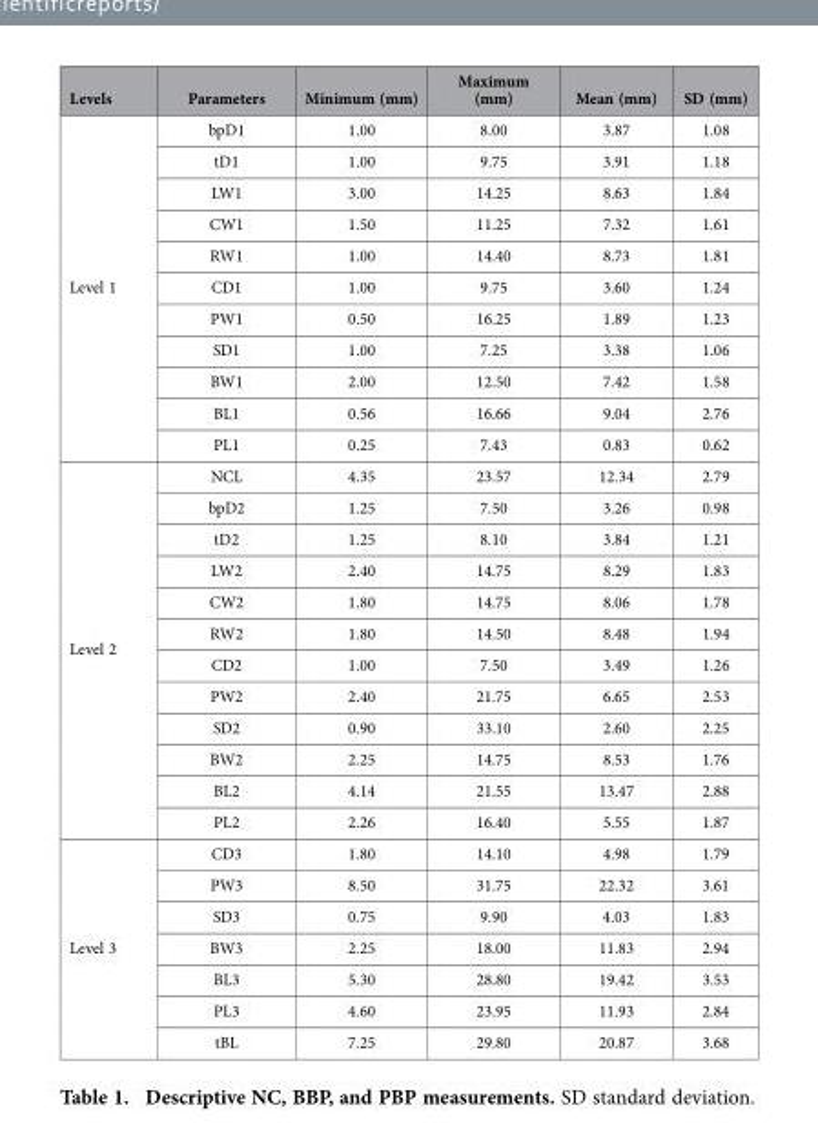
<table><thead><tr><td>Levels</td><td>Parameters</td><td>Minimum (mm)</td><td>Maximum (mm)</td><td>Mean (mm)</td><td>SD (mm)</td></tr></thead><tbody><tr><td rowspan="11">Level 1</td><td>bpD1</td><td>1.00</td><td>8.00</td><td>3.87</td><td>1.08</td></tr><tr><td>tD1</td><td>1.00</td><td>9.75</td><td>3.91</td><td>1.18</td></tr><tr><td>LW1</td><td>3.00</td><td>14.25</td><td>8.63</td><td>1.84</td></tr><tr><td>CW1</td><td>1.50</td><td>11.25</td><td>7.32</td><td>1.61</td></tr><tr><td>RW1</td><td>1.00</td><td>14.40</td><td>8.73</td><td>1.81</td></tr><tr><td>CD1</td><td>1.00</td><td>9.75</td><td>3.60</td><td>1.24</td></tr><tr><td>PW1</td><td>0.50</td><td>16.25</td><td>1.89</td><td>1.23</td></tr><tr><td>SD1</td><td>1.00</td><td>7.25</td><td>3.38</td><td>1.06</td></tr><tr><td>BW1</td><td>2.00</td><td>12.50</td><td>7.42</td><td>1.58</td></tr><tr><td>BL1</td><td>0.56</td><td>16.66</td><td>9.04</td><td>2.76</td></tr><tr><td>PL1</td><td>0.25</td><td>7.43</td><td>0.83</td><td>0.62</td></tr><tr><td rowspan="12">Level 2</td><td>NCL</td><td>4.35</td><td>23.57</td><td>12.34</td><td>2.79</td></tr><tr><td>bpD2</td><td>1.25</td><td>7.50</td><td>3.26</td><td>0.98</td></tr><tr><td>tD2</td><td>1.25</td><td>8.10</td><td>3.84</td><td>1.21</td></tr><tr><td>LW2</td><td>2.40</td><td>14.75</td><td>8.29</td><td>1.83</td></tr><tr><td>CW2</td><td>1.80</td><td>14.75</td><td>8.06</td><td>1.78</td></tr><tr><td>RW2</td><td>1.80</td><td>14.50</td><td>8.48</td><td>1.94</td></tr><tr><td>CD2</td><td>1.00</td><td>7.50</td><td>3.49</td><td>1.26</td></tr><tr><td>PW2</td><td>2.40</td><td>21.75</td><td>6.65</td><td>2.53</td></tr><tr><td>SD2</td><td>0.90</td><td>33.10</td><td>2.60</td><td>2.25</td></tr><tr><td>BW2</td><td>2.25</td><td>14.75</td><td>8.53</td><td>1.76</td></tr><tr><td>BL2</td><td>4.14</td><td>21.55</td><td>13.47</td><td>2.88</td></tr><tr><td>PL2</td><td>2.26</td><td>16.40</td><td>5.55</td><td>1.87</td></tr><tr><td rowspan="7">Level 3</td><td>CD3</td><td>1.80</td><td>14.10</td><td>4.98</td><td>1.79</td></tr><tr><td>PW3</td><td>8.50</td><td>31.75</td><td>22.32</td><td>3.61</td></tr><tr><td>SD3</td><td>0.75</td><td>9.90</td><td>4.03</td><td>1.83</td></tr><tr><td>BW3</td><td>2.25</td><td>18.00</td><td>11.83</td><td>2.94</td></tr><tr><td>BL3</td><td>5.30</td><td>28.80</td><td>19.42</td><td>3.53</td></tr><tr><td>PL3</td><td>4.60</td><td>23.95</td><td>11.93</td><td>2.84</td></tr><tr><td>tBL</td><td>7.25</td><td>29.80</td><td>20.87</td><td>3.68</td></tr></tbody></table>